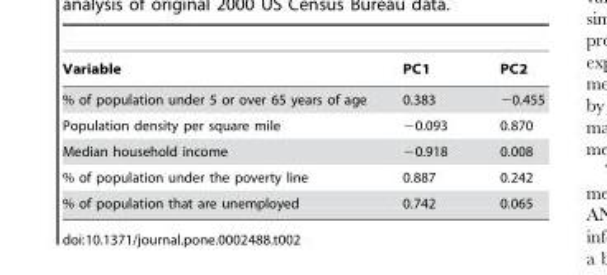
<table><thead><tr><td>Variable</td><td>PC1</td><td>PC2</td></tr></thead><tbody><tr><td>% of population under 5 or over 65 years of age</td><td>0.383</td><td>−0.455</td></tr><tr><td>Population density per square mile</td><td>−0.093</td><td>0.870</td></tr><tr><td>Median household income</td><td>−0.918</td><td>0.008</td></tr><tr><td>% of population under the poverty line</td><td>0.887</td><td>0.242</td></tr><tr><td>% of population that are unemployed</td><td>0.742</td><td>0.065</td></tr></tbody></table>